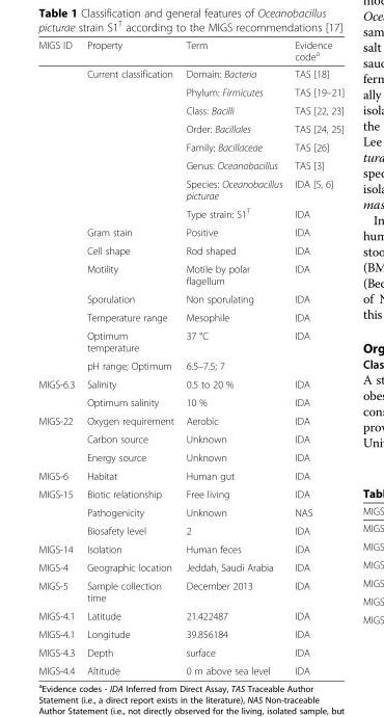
<table><thead><tr><td>MIGS ID</td><td>Property</td><td>Term</td><td>Evidence code<sup>a</sup></td></tr></thead><tbody><tr><td></td><td>Current classification</td><td>Domain: Bacteria</td><td>TAS [18]</td></tr><tr><td></td><td></td><td>Phylum: Firmicutes</td><td>TAS [19–21]</td></tr><tr><td></td><td></td><td>Class: Bacilli</td><td>TAS [22, 23]</td></tr><tr><td></td><td></td><td>Order: Bacillales</td><td>TAS [24, 25]</td></tr><tr><td></td><td></td><td>Family: Bacillaceae</td><td>TAS [26]</td></tr><tr><td></td><td></td><td>Genus: Oceanobacillus</td><td>TAS [3]</td></tr><tr><td></td><td></td><td>Species: Oceanobacillus picturae</td><td>IDA [5, 6]</td></tr><tr><td></td><td></td><td>Type strain: S1<sup>T</sup></td><td>IDA</td></tr><tr><td></td><td>Gram stain</td><td>Positive</td><td>IDA</td></tr><tr><td></td><td>Cell shape</td><td>Rod shaped</td><td>IDA</td></tr><tr><td></td><td>Motility</td><td>Motile by polar flagellum</td><td>IDA</td></tr><tr><td></td><td>Sporulation</td><td>Non sporulating</td><td>IDA</td></tr><tr><td></td><td>Temperature range</td><td>Mesophile</td><td>IDA</td></tr><tr><td></td><td>Optimum temperature</td><td>37 °C</td><td>IDA</td></tr><tr><td></td><td>pH range; Optimum</td><td>6.5–7.5; 7</td><td></td></tr><tr><td rowspan="2">MIGS-6.3</td><td>Salinity</td><td>0.5 to 20 %</td><td>IDA</td></tr><tr><td>Optimum salinity</td><td>10 %</td><td>IDA</td></tr><tr><td rowspan="3">MIGS-22</td><td>Oxygen requirement</td><td>Aerobic</td><td>IDA</td></tr><tr><td>Carbon source</td><td>Unknown</td><td>IDA</td></tr><tr><td>Energy source</td><td>Unknown</td><td>IDA</td></tr><tr><td>MIGS-6</td><td>Habitat</td><td>Human gut</td><td>IDA</td></tr><tr><td rowspan="3">MIGS-15</td><td>Biotic relationship</td><td>Free living</td><td>IDA</td></tr><tr><td>Pathogenicity</td><td>Unknown</td><td>NAS</td></tr><tr><td>Biosafety level</td><td>2</td><td>IDA</td></tr><tr><td>MIGS-14</td><td>Isolation</td><td>Human feces</td><td>IDA</td></tr><tr><td>MIGS-4</td><td>Geographic location</td><td>Jeddah, Saudi Arabia</td><td>IDA</td></tr><tr><td>MIGS-5</td><td>Sample collection time</td><td>December 2013</td><td>IDA</td></tr><tr><td>MIGS-4.1</td><td>Latitude</td><td>21.422487</td><td>IDA</td></tr><tr><td>MIGS-4.1</td><td>Longitude</td><td>39.856184</td><td>IDA</td></tr><tr><td>MIGS-4.3</td><td>Depth</td><td>surface</td><td>IDA</td></tr><tr><td>MIGS-4.4</td><td>Altitude</td><td>0 m above sea level</td><td>IDA</td></tr></tbody></table>